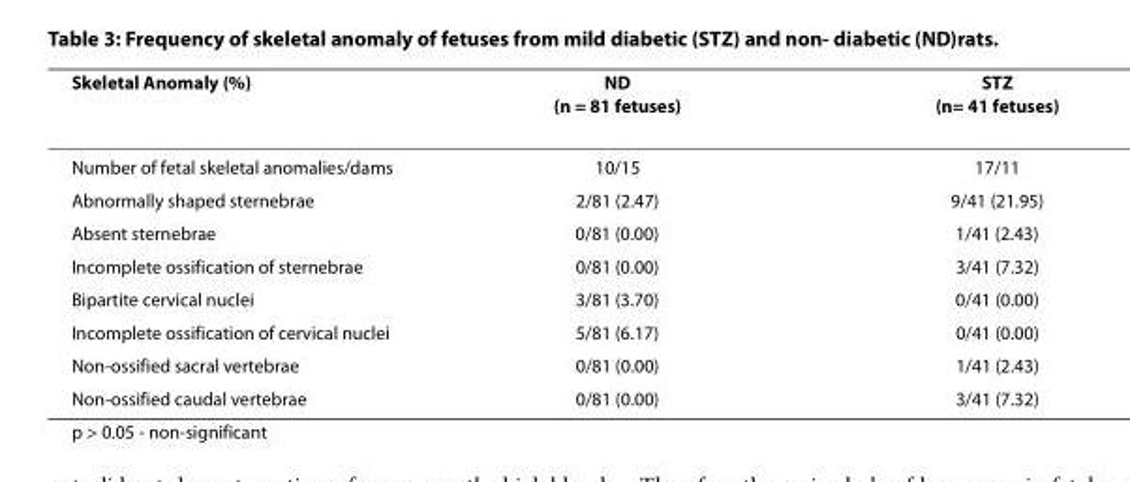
<table><thead><tr><td>Skeletal Anomaly (%)</td><td>ND (n = 81 fetuses)</td><td>STZ (n= 41 fetuses)</td></tr></thead><tbody><tr><td>Number of fetal skeletal anomalies/dams</td><td>10/15</td><td>17/11</td></tr><tr><td>Abnormally shaped sternebrae</td><td>2/81 (2.47)</td><td>9/41 (21.95)</td></tr><tr><td>Absent sternebrae</td><td>0/81 (0.00)</td><td>1/41 (2.43)</td></tr><tr><td>Incomplete ossification of sternebrae</td><td>0/81 (0.00)</td><td>3/41 (7.32)</td></tr><tr><td>Bipartite cervical nuclei</td><td>3/81 (3.70)</td><td>0/41 (0.00)</td></tr><tr><td>Incomplete ossification of cervical nuclei</td><td>5/81 (6.17)</td><td>0/41 (0.00)</td></tr><tr><td>Non-ossified sacral vertebrae</td><td>0/81 (0.00)</td><td>1/41 (2.43)</td></tr><tr><td>Non-ossified caudal vertebrae</td><td>0/81 (0.00)</td><td>3/41 (7.32)</td></tr></tbody></table>